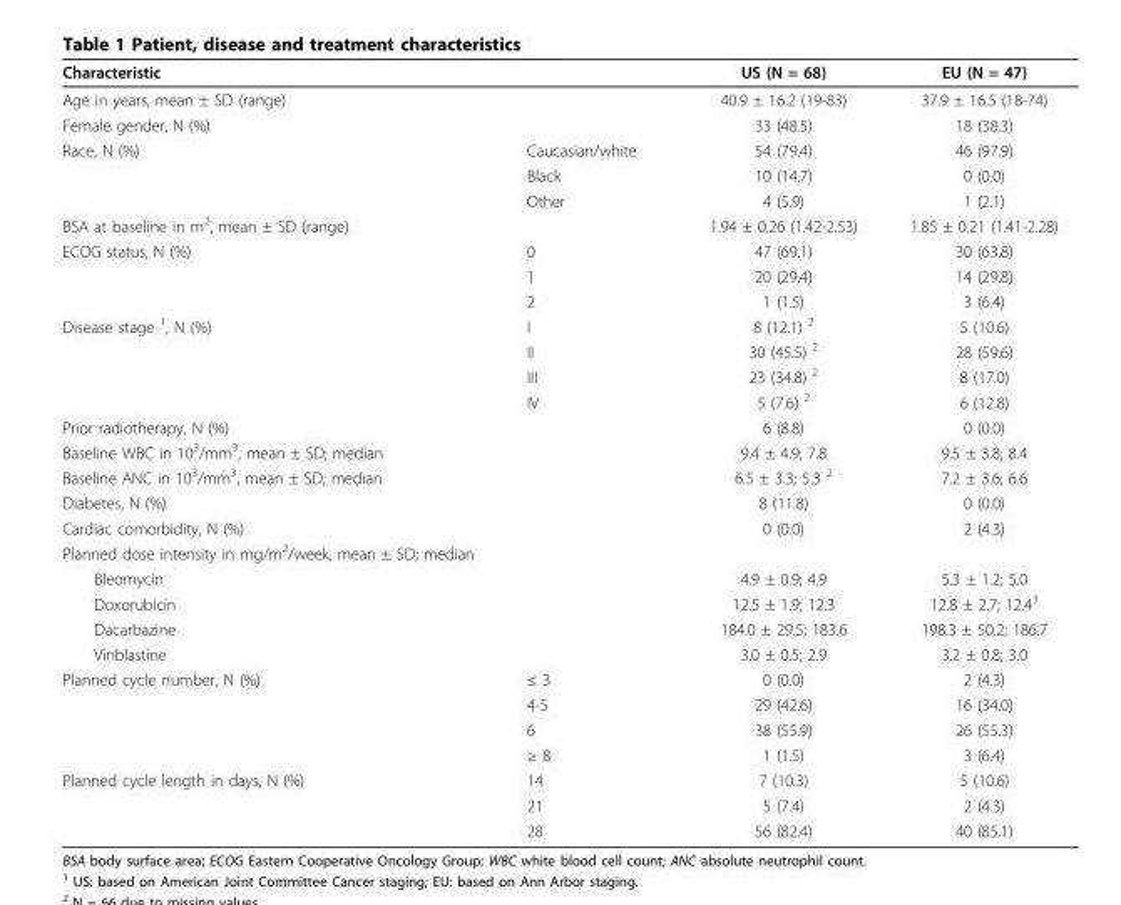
<table><thead><tr><td rowspan="3" colspan="2">Characteristic Age in years, mean ± SD (range) Female gender, N (%)</td><td rowspan="4">US (N = 68) 40.9 ± 16.2 (19-83) 33 (48.5) 54 (79.4)</td><td rowspan="4">EU (N = 47) 37.9 ± 16.5 (18-74) 18 (38.3) 46 (97.9)</td></tr><tr></tr><tr></tr><tr><td>Race, N (%)</td><td>Caucasian/white</td></tr></thead><tbody><tr><td></td><td>Black</td><td>10 (14.7)</td><td>0 (0.0)</td></tr><tr><td></td><td>Other</td><td>4 (5.9)</td><td>1 (2.1)</td></tr><tr><td colspan="2">BSA at baseline in m<sup>2</sup>, mean ± SD (range)</td><td>1.94 ± 0.26 (1.42-2.53)</td><td>1.85 ± 0.21 (1.41-2.28)</td></tr><tr><td rowspan="3">ECOG status, N (%)</td><td>0</td><td>47 (69.1)</td><td>30 (63.8)</td></tr><tr><td>1</td><td>20 (29.4)</td><td>14 (29.8)</td></tr><tr><td>2</td><td>1 (1.5)</td><td>3 (6.4)</td></tr><tr><td rowspan="4">Disease stage <sup>1</sup>, N (%)</td><td>I</td><td>8 (12.1) <sup>2</sup></td><td>5 (10.6)</td></tr><tr><td>II</td><td>30 (45.5) <sup>2</sup></td><td>28 (59.6)</td></tr><tr><td>III</td><td>23 (34.8) <sup>2</sup></td><td>8 (17.0)</td></tr><tr><td>IV</td><td>5 (7.6) <sup>2</sup></td><td>6 (12.8)</td></tr><tr><td colspan="2">Prior radiotherapy, N (%)</td><td>6 (8.8)</td><td>0 (0.0)</td></tr><tr><td colspan="2">Baseline WBC in 10<sup>3</sup>/mm<sup>3</sup>, mean ± SD; median</td><td>9.4 ± 4.9; 7.8</td><td>9.5 ± 3.8; 8.4</td></tr><tr><td colspan="2">Baseline ANC in 10<sup>3</sup>/mm<sup>3</sup>, mean ± SD; median</td><td>6.5 ± 3.3; 5.3 <sup>2</sup></td><td>7.2 ± 3.6; 6.6</td></tr><tr><td colspan="2">Diabetes, N (%)</td><td>8 (11.8)</td><td>0 (0.0)</td></tr><tr><td colspan="2">Cardiac comorbidity, N (%)</td><td>0 (0.0)</td><td>2 (4.3)</td></tr><tr><td colspan="4">Planned dose intensity in mg/m<sup>2</sup>/week, mean ± SD; median</td></tr><tr><td>Bleomycin</td><td></td><td>4.9 ± 0.9; 4.9</td><td>5.3 ± 1.2; 5.0</td></tr><tr><td>Doxorubicin</td><td></td><td>12.5 ± 1.9; 12.3</td><td>12.8 ± 2.7; 12.4<sup>3</sup></td></tr><tr><td>Dacarbazine</td><td></td><td>184.0 ± 29.5; 183.6</td><td>198.3 ± 50.2; 186.7</td></tr><tr><td>Vinblastine</td><td></td><td>3.0 ± 0.5; 2.9</td><td>3.2 ± 0.8; 3.0</td></tr><tr><td rowspan="4">Planned cycle number, N (%)</td><td>≤ 3</td><td>0 (0.0)</td><td>2 (4.3)</td></tr><tr><td>4-5</td><td>29 (42.6)</td><td>16 (34.0)</td></tr><tr><td>6</td><td>38 (55.9)</td><td>26 (55.3)</td></tr><tr><td>≥ 8</td><td>1 (1.5)</td><td>3 (6.4)</td></tr><tr><td rowspan="3">Planned cycle length in days, N (%)</td><td>14</td><td>7 (10.3)</td><td>5 (10.6)</td></tr><tr><td>21</td><td>5 (7.4)</td><td>2 (4.3)</td></tr><tr><td>28</td><td>56 (82.4)</td><td>40 (85.1)</td></tr></tbody></table>